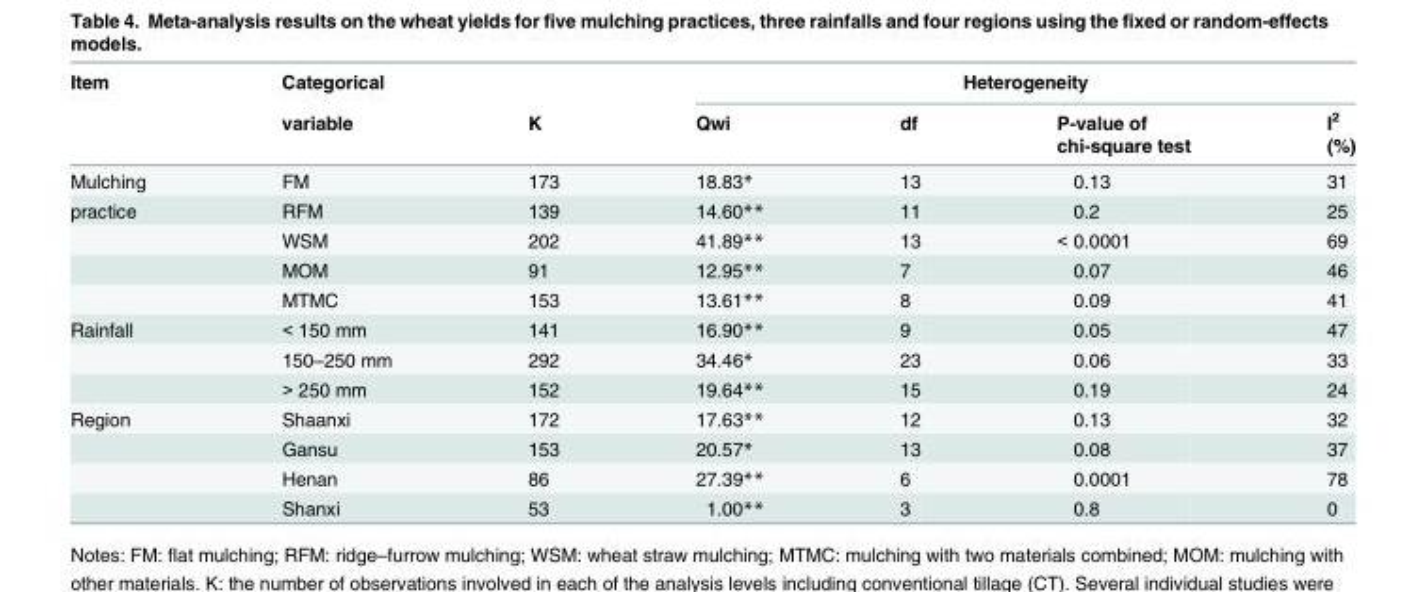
<table><thead><tr><td rowspan="3">Item</td><td rowspan="3">Categorical variable</td><td rowspan="3">K</td><td colspan="4">Heterogeneity</td></tr><tr><td rowspan="2">Qwi</td><td rowspan="2">df</td><td rowspan="2">P-value of chi-square test</td><td rowspan="2">I<sup>2</sup> (%)</td></tr><tr></tr></thead><tbody><tr><td>Mulching</td><td>FM</td><td>173</td><td>18.83*</td><td>13</td><td>0.13</td><td>31</td></tr><tr><td rowspan="4">practice</td><td>RFM</td><td>139</td><td>14.60**</td><td>11</td><td>0.2</td><td>25</td></tr><tr><td>WSM</td><td>202</td><td>41.89**</td><td>13</td><td>&lt; 0.0001</td><td>69</td></tr><tr><td>MOM</td><td>91</td><td>12.95**</td><td>7</td><td>0.07</td><td>46</td></tr><tr><td>MTMC</td><td>153</td><td>13.61**</td><td>8</td><td>0.09</td><td>41</td></tr><tr><td rowspan="3">Rainfall</td><td>&lt; 150 mm</td><td>141</td><td>16.90**</td><td>9</td><td>0.05</td><td>47</td></tr><tr><td>150–250 mm</td><td>292</td><td>34.46*</td><td>23</td><td>0.06</td><td>33</td></tr><tr><td>&gt; 250 mm</td><td>152</td><td>19.64**</td><td>15</td><td>0.19</td><td>24</td></tr><tr><td rowspan="4">Region</td><td>Shaanxi</td><td>172</td><td>17.63**</td><td>12</td><td>0.13</td><td>32</td></tr><tr><td>Gansu</td><td>153</td><td>20.57*</td><td>13</td><td>0.08</td><td>37</td></tr><tr><td>Henan</td><td>86</td><td>27.39**</td><td>6</td><td>0.0001</td><td>78</td></tr><tr><td>Shanxi</td><td>53</td><td>1.00**</td><td>3</td><td>0.8</td><td>0</td></tr></tbody></table>